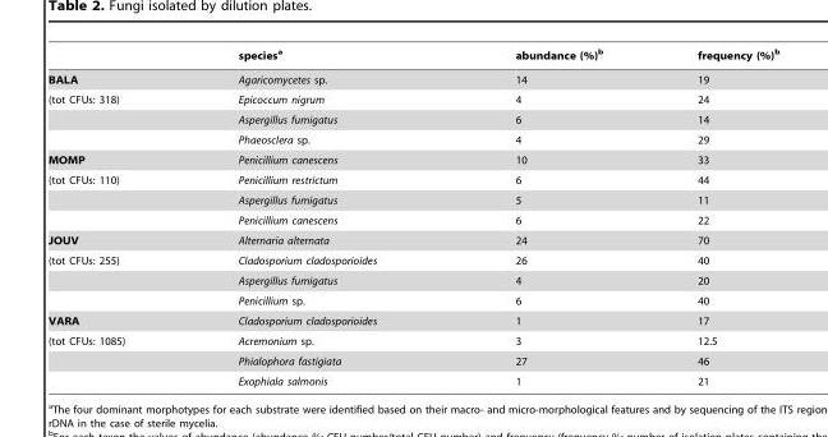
<table><thead><tr><td></td><td>species<sup>a</sup></td><td>abundance (%)<sup>b</sup></td><td>frequency (%)<sup>b</sup></td></tr></thead><tbody><tr><td>BALA</td><td>Agaricomycetes sp.</td><td>14</td><td>19</td></tr><tr><td rowspan="3">(tot CFUs: 318)</td><td>Epicoccum nigrum</td><td>4</td><td>24</td></tr><tr><td>Aspergillus fumigatus</td><td>6</td><td>14</td></tr><tr><td>Phaeosclera sp.</td><td>4</td><td>29</td></tr><tr><td>MOMP</td><td>Penicillium canescens</td><td>10</td><td>33</td></tr><tr><td rowspan="3">(tot CFUs: 110)</td><td>Penicillium restrictum</td><td>6</td><td>44</td></tr><tr><td>Aspergillus fumigatus</td><td>5</td><td>11</td></tr><tr><td>Penicillium canescens</td><td>6</td><td>22</td></tr><tr><td>JOUV</td><td>Alternaria alternata</td><td>24</td><td>70</td></tr><tr><td rowspan="3">(tot CFUs: 255)</td><td>Cladosporium cladosporioides</td><td>26</td><td>40</td></tr><tr><td>Aspergillus fumigatus</td><td>4</td><td>20</td></tr><tr><td>Penicillium sp.</td><td>6</td><td>40</td></tr><tr><td>VARA</td><td>Cladosporium cladosporioides</td><td>1</td><td>17</td></tr><tr><td rowspan="3">(tot CFUs: 1085)</td><td>Acremonium sp.</td><td>3</td><td>12.5</td></tr><tr><td>Phialophora fastigiata</td><td>27</td><td>46</td></tr><tr><td>Exophiala salmonis</td><td>1</td><td>21</td></tr></tbody></table>